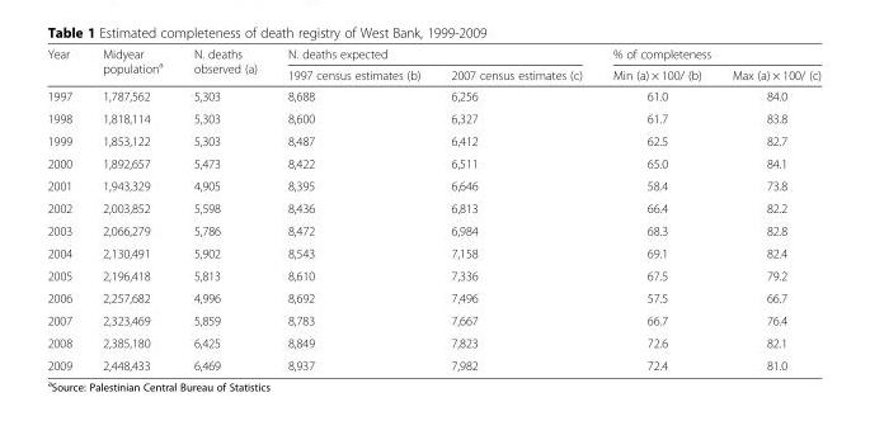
<table><thead><tr><td rowspan="2">Year</td><td rowspan="2">Midyear population<sup>a</sup></td><td rowspan="2">N. deaths observed (a)</td><td colspan="2">N. deaths expected</td><td colspan="2">% of completeness</td></tr><tr><td>1997 census estimates (b)</td><td>2007 census estimates (c)</td><td>Min (a) × 100/ (b)</td><td>Max (a) × 100/ (c)</td></tr></thead><tbody><tr><td>1997</td><td>1,787,562</td><td>5,303</td><td>8,688</td><td>6,256</td><td>61.0</td><td>84.0</td></tr><tr><td>1998</td><td>1,818,114</td><td>5,303</td><td>8,600</td><td>6,327</td><td>61.7</td><td>83.8</td></tr><tr><td>1999</td><td>1,853,122</td><td>5,303</td><td>8,487</td><td>6,412</td><td>62.5</td><td>82.7</td></tr><tr><td>2000</td><td>1,892,657</td><td>5,473</td><td>8,422</td><td>6,511</td><td>65.0</td><td>84.1</td></tr><tr><td>2001</td><td>1,943,329</td><td>4,905</td><td>8,395</td><td>6,646</td><td>58.4</td><td>73.8</td></tr><tr><td>2002</td><td>2,003,852</td><td>5,598</td><td>8,436</td><td>6,813</td><td>66.4</td><td>82.2</td></tr><tr><td>2003</td><td>2,066,279</td><td>5,786</td><td>8,472</td><td>6,984</td><td>68.3</td><td>82.8</td></tr><tr><td>2004</td><td>2,130,491</td><td>5,902</td><td>8,543</td><td>7,158</td><td>69.1</td><td>82.4</td></tr><tr><td>2005</td><td>2,196,418</td><td>5,813</td><td>8,610</td><td>7,336</td><td>67.5</td><td>79.2</td></tr><tr><td>2006</td><td>2,257,682</td><td>4,996</td><td>8,692</td><td>7,496</td><td>57.5</td><td>66.7</td></tr><tr><td>2007</td><td>2,323,469</td><td>5,859</td><td>8,783</td><td>7,667</td><td>66.7</td><td>76.4</td></tr><tr><td>2008</td><td>2,385,180</td><td>6,425</td><td>8,849</td><td>7,823</td><td>72.6</td><td>82.1</td></tr><tr><td>2009</td><td>2,448,433</td><td>6,469</td><td>8,937</td><td>7,982</td><td>72.4</td><td>81.0</td></tr></tbody></table>